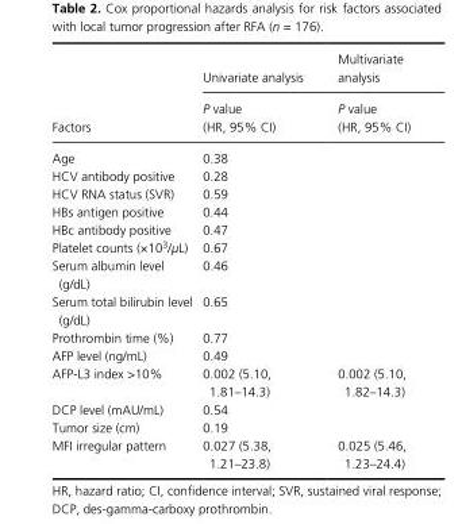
<table><thead><tr><td rowspan="2">Factors</td><td rowspan="2">Univariate analysis P value (HR, 95% CI)</td><td rowspan="2">Multivariate analysis P value (HR, 95% CI)</td></tr><tr></tr></thead><tbody><tr><td>Age</td><td>0.38</td><td></td></tr><tr><td>HCV antibody positive</td><td>0.28</td><td></td></tr><tr><td>HCV RNA status (SVR)</td><td>0.59</td><td></td></tr><tr><td>HBs antigen positive</td><td>0.44</td><td></td></tr><tr><td>HBc antibody positive</td><td>0.47</td><td></td></tr><tr><td>Platelet counts (×10<sup>3</sup>/μL)</td><td>0.67</td><td></td></tr><tr><td>Serum albumin level (g/dL)</td><td>0.46</td><td></td></tr><tr><td>Serum total bilirubin level (g/dL)</td><td>0.65</td><td></td></tr><tr><td>Prothrombin time (%)</td><td>0.77</td><td></td></tr><tr><td>AFP level (ng/mL)</td><td>0.49</td><td></td></tr><tr><td>AFP- L3 index &gt;10%</td><td>0.002 (5.10, 1.81–14.3)</td><td>0.002 (5.10, 1.82–14.3)</td></tr><tr><td>DCP level (mAU/mL)</td><td>0.54</td><td></td></tr><tr><td>Tumor size (cm)</td><td>0.19</td><td></td></tr><tr><td>MFI irregular pattern</td><td>0.027 (5.38, 1.21–23.8)</td><td>0.025 (5.46, 1.23–24.4)</td></tr></tbody></table>